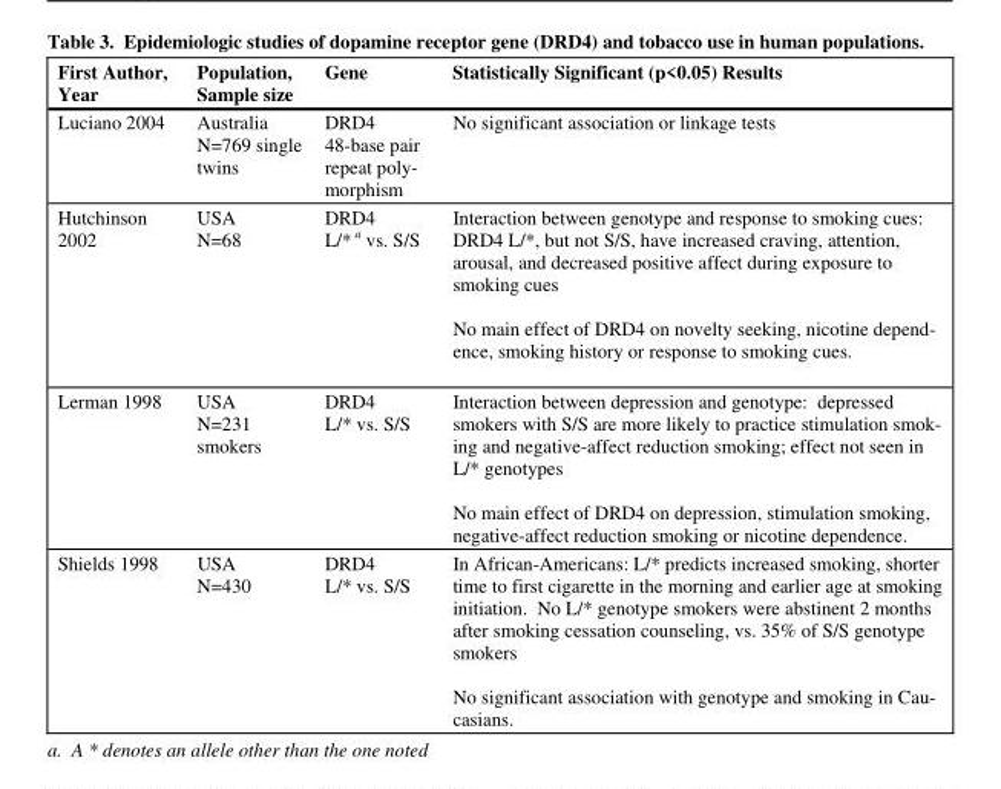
<table><thead><tr><td>First Author, Year</td><td>Population, Sample size</td><td>Gene</td><td>Statistically Significant (p&lt;0.05) Results</td></tr></thead><tbody><tr><td>Luciano 2004</td><td>Australia N=769 single twins</td><td>DRD4 48-base pair repeat poly- morphism</td><td>No significant association or linkage tests</td></tr><tr><td rowspan="2">Hutchinson 2002</td><td>USA N=68</td><td>DRD4 L/* <sup>a</sup> vs. S/S</td><td>Interaction between genotype and response to smoking cues: DRD4 L/*, but not S/S, have increased craving, attention, arousal, and decreased positive affect during exposure to smoking cues</td></tr><tr><td></td><td></td><td>No main effect of DRD4 on novelty seeking, nicotine depend- ence, smoking history or response to smoking cues.</td></tr><tr><td rowspan="2">Lerman 1998</td><td>USA N=231 smokers</td><td>DRD4 L/* vs. S/S</td><td>Interaction between depression and genotype: depressed smokers with S/S are more likely to practice stimulation smok- ing and negative-affect reduction smoking; effect not seen in L/* genotypes</td></tr><tr><td></td><td></td><td>No main effect of DRD4 on depression, stimulation smoking, negative-affect reduction smoking or nicotine dependence.</td></tr><tr><td rowspan="2">Shields 1998</td><td>USA N=430</td><td>DRD4 L/* vs. S/S</td><td>In African-Americans: L/* predicts increased smoking, shorter time to first cigarette in the morning and earlier age at smoking initiation. No L/* genotype smokers were abstinent 2 months after smoking cessation counseling, vs. 35% of S/S genotype smokers</td></tr><tr><td></td><td></td><td>No significant association with genotype and smoking in Cau- casians.</td></tr></tbody></table>